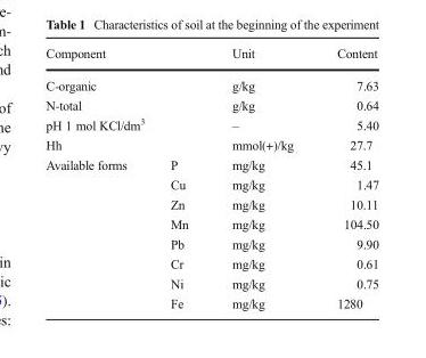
<table><thead><tr><td colspan="2">Component</td><td>Unit</td><td>Content</td></tr></thead><tbody><tr><td colspan="2">C-organic</td><td>g/kg</td><td>7.63</td></tr><tr><td colspan="2">N-total</td><td>g/kg</td><td>0.64</td></tr><tr><td colspan="2">pH 1 mol KCl/dm<sup>3</sup></td><td>–</td><td>5.40</td></tr><tr><td colspan="2">Hh</td><td>mmol(+)/kg</td><td>27.7</td></tr><tr><td rowspan="8">Available forms</td><td>P</td><td>mg/kg</td><td>45.1</td></tr><tr><td>Cu</td><td>mg/kg</td><td>1.47</td></tr><tr><td>Zn</td><td>mg/kg</td><td>10.11</td></tr><tr><td>Mn</td><td>mg/kg</td><td>104.50</td></tr><tr><td>Pb</td><td>mg/kg</td><td>9.90</td></tr><tr><td>Cr</td><td>mg/kg</td><td>0.61</td></tr><tr><td>Ni</td><td>mg/kg</td><td>0.75</td></tr><tr><td>Fe</td><td>mg/kg</td><td>1280</td></tr></tbody></table>